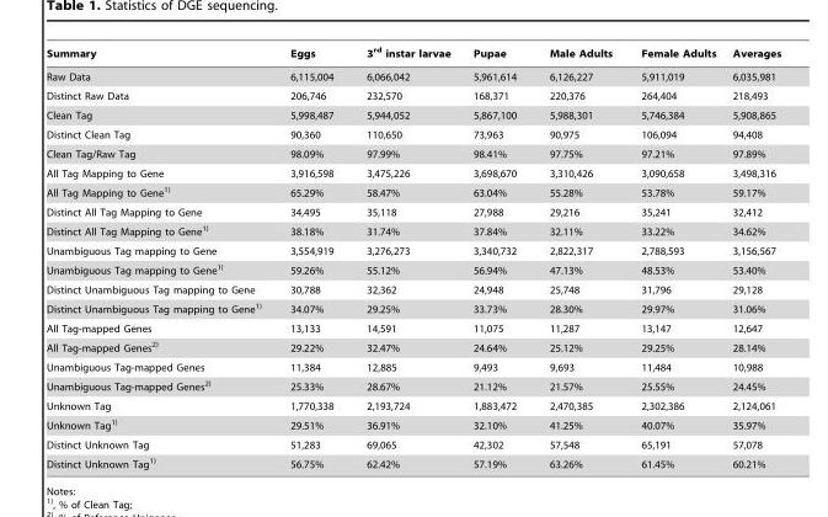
<table><thead><tr><td>Summary</td><td>Eggs</td><td>3<sup>rd</sup> instar larvae</td><td>Pupae</td><td>Male Adults</td><td>Female Adults</td><td>Averages</td></tr></thead><tbody><tr><td>Raw Data</td><td>6,115,004</td><td>6,066,042</td><td>5,961,614</td><td>6,126,227</td><td>5,911,019</td><td>6,035,981</td></tr><tr><td>Distinct Raw Data</td><td>206,746</td><td>232,570</td><td>168,371</td><td>220,376</td><td>264,404</td><td>218,493</td></tr><tr><td>Clean Tag</td><td>5,998,487</td><td>5,944,052</td><td>5,867,100</td><td>5,988,301</td><td>5,746,384</td><td>5,908,865</td></tr><tr><td>Distinct Clean Tag</td><td>90,360</td><td>110,650</td><td>73,963</td><td>90,975</td><td>106,094</td><td>94,408</td></tr><tr><td>Clean Tag/Raw Tag</td><td>98.09%</td><td>97.99%</td><td>98.41%</td><td>97.75%</td><td>97.21%</td><td>97.89%</td></tr><tr><td>All Tag Mapping to Gene</td><td>3,916,598</td><td>3,475,226</td><td>3,698,670</td><td>3,310,426</td><td>3,090,658</td><td>3,498,316</td></tr><tr><td>All Tag Mapping to Gene1)</td><td>65.29%</td><td>58.47%</td><td>63.04%</td><td>55.28%</td><td>53.78%</td><td>59.17%</td></tr><tr><td>Distinct All Tag Mapping to Gene</td><td>34,495</td><td>35,118</td><td>27,988</td><td>29,216</td><td>35,241</td><td>32,412</td></tr><tr><td>Distinct All Tag Mapping to Gene1)</td><td>38.18%</td><td>31.74%</td><td>37.84%</td><td>32.11%</td><td>33.22%</td><td>34.62%</td></tr><tr><td>Unambiguous Tag mapping to Gene</td><td>3,554,919</td><td>3,276,273</td><td>3,340,732</td><td>2,822,317</td><td>2,788,593</td><td>3,156,567</td></tr><tr><td>Unambiguous Tag mapping to Gene1)</td><td>59.26%</td><td>55.12%</td><td>56.94%</td><td>47.13%</td><td>48.53%</td><td>53.40%</td></tr><tr><td>Distinct Unambiguous Tag mapping to Gene</td><td>30,788</td><td>32,362</td><td>24,948</td><td>25,748</td><td>31,796</td><td>29,128</td></tr><tr><td>Distinct Unambiguous Tag mapping to Gene1)</td><td>34.07%</td><td>29.25%</td><td>33.73%</td><td>28.30%</td><td>29.97%</td><td>31.06%</td></tr><tr><td>All Tag-mapped Genes</td><td>13,133</td><td>14,591</td><td>11,075</td><td>11,287</td><td>13,147</td><td>12,647</td></tr><tr><td>All Tag-mapped Genes2)</td><td>29.22%</td><td>32.47%</td><td>24.64%</td><td>25.12%</td><td>29.25%</td><td>28.14%</td></tr><tr><td>Unambiguous Tag-mapped Genes</td><td>11,384</td><td>12,885</td><td>9,493</td><td>9,693</td><td>11,484</td><td>10,988</td></tr><tr><td>Unambiguous Tag-mapped Genes2)</td><td>25.33%</td><td>28.67%</td><td>21.12%</td><td>21.57%</td><td>25.55%</td><td>24.45%</td></tr><tr><td>Unknown Tag</td><td>1,770,338</td><td>2,193,724</td><td>1,883,472</td><td>2,470,385</td><td>2,302,386</td><td>2,124,061</td></tr><tr><td>Unknown Tag1)</td><td>29.51%</td><td>36.91%</td><td>32.10%</td><td>41.25%</td><td>40.07%</td><td>35.97%</td></tr><tr><td>Distinct Unknown Tag</td><td>51,283</td><td>69,065</td><td>42,302</td><td>57,548</td><td>65,191</td><td>57,078</td></tr><tr><td>Distinct Unknown Tag1)</td><td>56.75%</td><td>62.42%</td><td>57.19%</td><td>63.26%</td><td>61.45%</td><td>60.21%</td></tr></tbody></table>